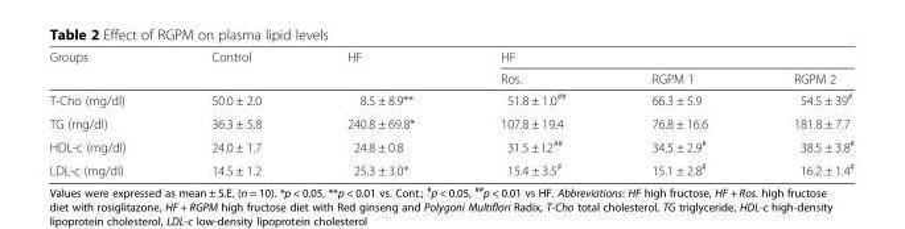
<table><thead><tr><td rowspan="2">Groups</td><td rowspan="2">Control</td><td rowspan="2">HF</td><td colspan="3">HF</td></tr><tr><td>Ros.</td><td>RGPM 1</td><td>RGPM 2</td></tr></thead><tbody><tr><td>T-Cho (mg/dl)</td><td>50.0 ± 2.0</td><td>8.5 ± 8.9**</td><td>51.8 ± 1.0<sup>##</sup></td><td>66.3 ± 5.9</td><td>54.5 ± 39<sup>#</sup></td></tr><tr><td>TG (mg/dl)</td><td>36.3 ± 5.8</td><td>240.8 ± 69.8*</td><td>107.8 ± 19.4</td><td>76.8 ± 16.6</td><td>181.8 ± 7.7</td></tr><tr><td>HDL-c (mg/dl)</td><td>24.0 ± 1.7</td><td>24.8 ± 0.8</td><td>31.5 ± l.2<sup>##</sup></td><td>34.5 ± 2.9<sup>#</sup></td><td>38.5 ± 3.8<sup>#</sup></td></tr><tr><td>LDL-c (mg/dl)</td><td>14.5 ± 1.2</td><td>25.3 ± 3.0*</td><td>15.4 ± 3.5<sup>#</sup></td><td>15.1 ± 2.8<sup>#</sup></td><td>16.2 ± 1.4<sup>#</sup></td></tr></tbody></table>